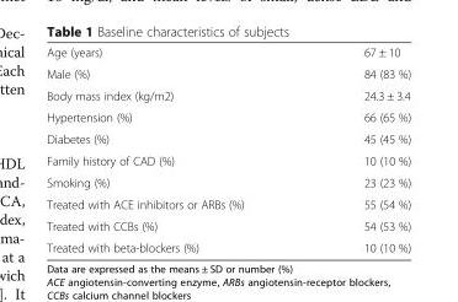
<table><tbody><tr><td>Age (years)</td><td>67 ± 10</td></tr><tr><td>Male (%)</td><td>84 (83 %)</td></tr><tr><td>Body mass index (kg/m2)</td><td>24.3 ± 3.4</td></tr><tr><td>Hypertension (%)</td><td>66 (65 %)</td></tr><tr><td>Diabetes (%)</td><td>45 (45 %)</td></tr><tr><td>Family history of CAD (%)</td><td>10 (10 %)</td></tr><tr><td>Smoking (%)</td><td>23 (23 %)</td></tr><tr><td>Treated with ACE inhibitors or ARBs (%)</td><td>55 (54 %)</td></tr><tr><td>Treated with CCBs (%)</td><td>54 (53 %)</td></tr><tr><td>Treated with beta-blockers (%)</td><td>10 (10 %)</td></tr></tbody></table>